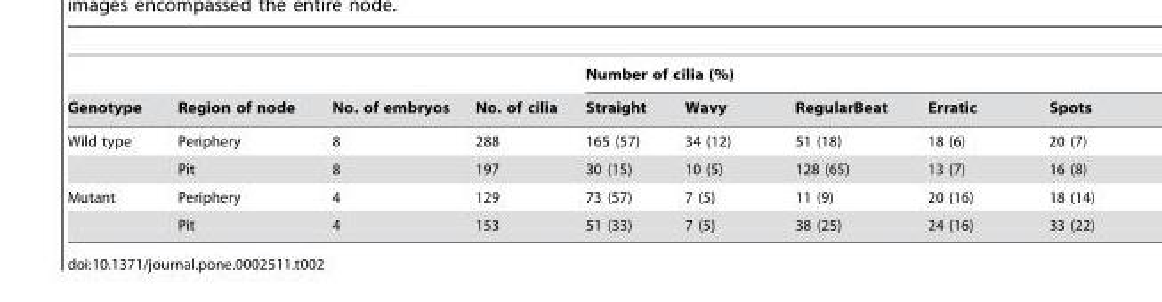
<table><thead><tr><td rowspan="2">Genotype</td><td rowspan="2">Region of node</td><td rowspan="2">No. of embryos</td><td rowspan="2">No. of cilia</td><td colspan="5">Number of cilia (%)</td></tr><tr><td>Straight</td><td>Wavy</td><td>RegularBeat</td><td>Erratic</td><td>Spots</td></tr></thead><tbody><tr><td rowspan="2">Wild type</td><td>Periphery</td><td>8</td><td>288</td><td>165 (57)</td><td>34 (12)</td><td>51 (18)</td><td>18 (6)</td><td>20 (7)</td></tr><tr><td>Pit</td><td>8</td><td>197</td><td>30 (15)</td><td>10 (5)</td><td>128 (65)</td><td>13 (7)</td><td>16 (8)</td></tr><tr><td rowspan="2">Mutant</td><td>Periphery</td><td>4</td><td>129</td><td>73 (57)</td><td>7 (5)</td><td>11 (9)</td><td>20 (16)</td><td>18 (14)</td></tr><tr><td>Pit</td><td>4</td><td>153</td><td>51 (33)</td><td>7 (5)</td><td>38 (25)</td><td>24 (16)</td><td>33 (22)</td></tr></tbody></table>